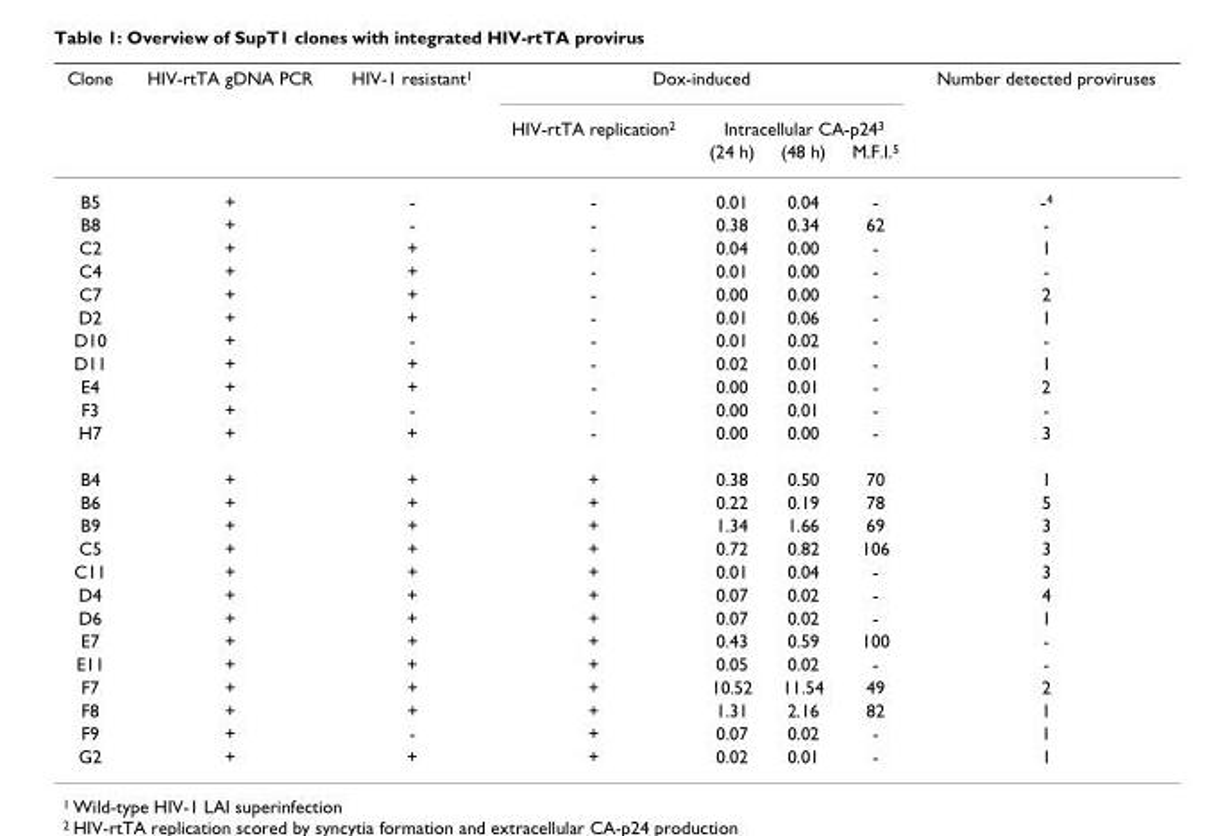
<table><thead><tr><td rowspan="3">Clone</td><td rowspan="3">HIV-rtTA gDNA PCR</td><td rowspan="3">HIV-1 resistant<sup>1</sup></td><td colspan="4">Dox-induced</td><td rowspan="3">Number detected proviruses</td></tr><tr><td rowspan="2">HIV-rtTA replication<sup>2</sup></td><td colspan="3">Intracellular CA-p24<sup>3</sup></td></tr><tr><td>(24 h)</td><td>(48 h)</td><td>M.F.I.<sup>5</sup></td></tr></thead><tbody><tr><td>B5</td><td>+</td><td>-</td><td>-</td><td>0.01</td><td>0.04</td><td>-</td><td>-<sup>4</sup></td></tr><tr><td>B8</td><td>+</td><td>-</td><td>-</td><td>0.38</td><td>0.34</td><td>62</td><td>-</td></tr><tr><td>C2</td><td>+</td><td>+</td><td>-</td><td>0.04</td><td>0.00</td><td>-</td><td>1</td></tr><tr><td>C4</td><td>+</td><td>+</td><td>-</td><td>0.01</td><td>0.00</td><td>-</td><td>-</td></tr><tr><td>C7</td><td>+</td><td>+</td><td>-</td><td>0.00</td><td>0.00</td><td>-</td><td>2</td></tr><tr><td>D2</td><td>+</td><td>+</td><td>-</td><td>0.01</td><td>0.06</td><td>-</td><td>1</td></tr><tr><td>D10</td><td>+</td><td>-</td><td>-</td><td>0.01</td><td>0.02</td><td>-</td><td>-</td></tr><tr><td>D11</td><td>+</td><td>+</td><td>-</td><td>0.02</td><td>0.01</td><td>-</td><td>1</td></tr><tr><td>E4</td><td>+</td><td>+</td><td>-</td><td>0.00</td><td>0.01</td><td>-</td><td>2</td></tr><tr><td>F3</td><td>+</td><td>-</td><td>-</td><td>0.00</td><td>0.01</td><td>-</td><td>-</td></tr><tr><td>H7</td><td>+</td><td>+</td><td>-</td><td>0.00</td><td>0.00</td><td>-</td><td>3</td></tr><tr><td>B4</td><td>+</td><td>+</td><td>+</td><td>0.38</td><td>0.50</td><td>70</td><td>1</td></tr><tr><td>B6</td><td>+</td><td>+</td><td>+</td><td>0.22</td><td>0.19</td><td>78</td><td>5</td></tr><tr><td>B9</td><td>+</td><td>+</td><td>+</td><td>1.34</td><td>1.66</td><td>69</td><td>3</td></tr><tr><td>C5</td><td>+</td><td>+</td><td>+</td><td>0.72</td><td>0.82</td><td>106</td><td>3</td></tr><tr><td>C11</td><td>+</td><td>+</td><td>+</td><td>0.01</td><td>0.04</td><td>-</td><td>3</td></tr><tr><td>D4</td><td>+</td><td>+</td><td>+</td><td>0.07</td><td>0.02</td><td>-</td><td>4</td></tr><tr><td>D6</td><td>+</td><td>+</td><td>+</td><td>0.07</td><td>0.02</td><td>-</td><td>1</td></tr><tr><td>E7</td><td>+</td><td>+</td><td>+</td><td>0.43</td><td>0.59</td><td>100</td><td>-</td></tr><tr><td>E11</td><td>+</td><td>+</td><td>+</td><td>0.05</td><td>0.02</td><td>-</td><td>-</td></tr><tr><td>F7</td><td>+</td><td>+</td><td>+</td><td>10.52</td><td>11.54</td><td>49</td><td>2</td></tr><tr><td>F8</td><td>+</td><td>+</td><td>+</td><td>1.31</td><td>2.16</td><td>82</td><td>1</td></tr><tr><td>F9</td><td>+</td><td>-</td><td>+</td><td>0.07</td><td>0.02</td><td>-</td><td>1</td></tr><tr><td>G2</td><td>+</td><td>+</td><td>+</td><td>0.02</td><td>0.01</td><td>-</td><td>1</td></tr></tbody></table>